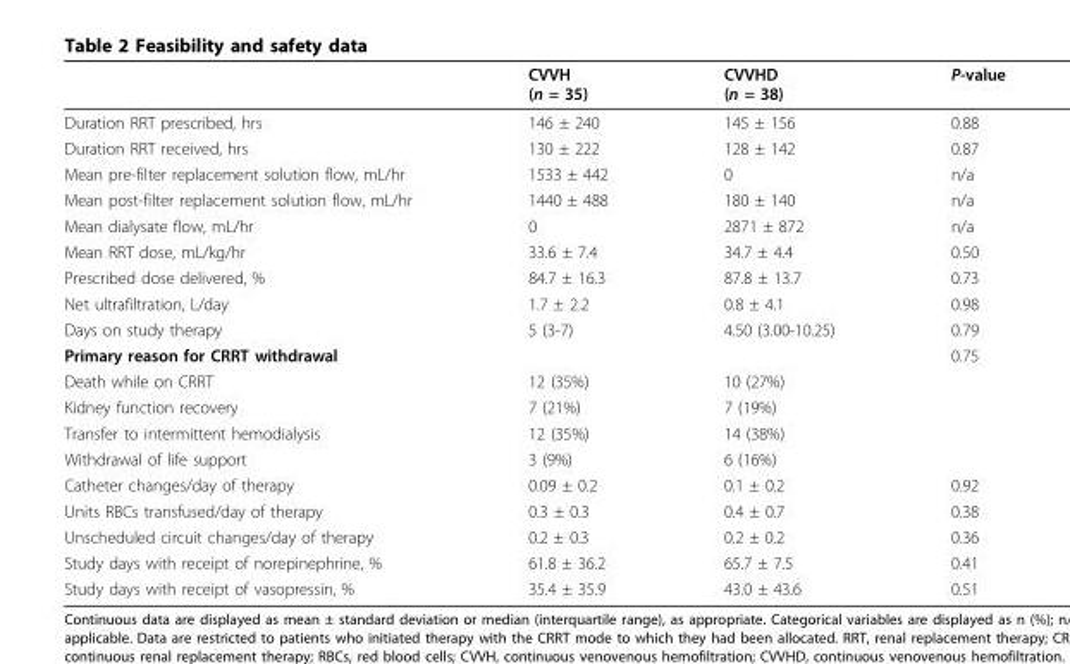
<table><thead><tr><td></td><td>CVVH (n = 35)</td><td>CVVHD (n = 38)</td><td>P-value</td></tr></thead><tbody><tr><td>Duration RRT prescribed, hrs</td><td>146 ± 240</td><td>145 ± 156</td><td>0.88</td></tr><tr><td>Duration RRT received, hrs</td><td>130 ± 222</td><td>128 ± 142</td><td>0.87</td></tr><tr><td>Mean pre-filter replacement solution flow, mL/hr</td><td>1533 ± 442</td><td>0</td><td>n/a</td></tr><tr><td>Mean post-filter replacement solution flow, mL/hr</td><td>1440 ± 488</td><td>180 ± 140</td><td>n/a</td></tr><tr><td>Mean dialysate flow, mL/hr</td><td>0</td><td>2871 ± 872</td><td>n/a</td></tr><tr><td>Mean RRT dose, mL/kg/hr</td><td>33.6 ± 7.4</td><td>34.7 ± 4.4</td><td>0.50</td></tr><tr><td>Prescribed dose delivered, %</td><td>84.7 ± 16.3</td><td>87.8 ± 13.7</td><td>0.73</td></tr><tr><td>Net ultrafiltration, L/day</td><td>1.7 ± 2.2</td><td>0.8 ± 4.1</td><td>0.98</td></tr><tr><td>Days on study therapy</td><td>5 (3-7)</td><td>4.50 (3.00-10.25)</td><td>0.79</td></tr><tr><td>Primary reason for CRRT withdrawal</td><td></td><td></td><td>0.75</td></tr><tr><td>Death while on CRRT</td><td>12 (35%)</td><td>10 (27%)</td><td></td></tr><tr><td>Kidney function recovery</td><td>7 (21%)</td><td>7 (19%)</td><td></td></tr><tr><td>Transfer to intermittent hemodialysis</td><td>12 (35%)</td><td>14 (38%)</td><td></td></tr><tr><td>Withdrawal of life support</td><td>3 (9%)</td><td>6 (16%)</td><td></td></tr><tr><td>Catheter changes/day of therapy</td><td>0.09 ± 0.2</td><td>0.1 ± 0.2</td><td>0.92</td></tr><tr><td>Units RBCs transfused/day of therapy</td><td>0.3 ± 0.3</td><td>0.4 ± 0.7</td><td>0.38</td></tr><tr><td>Unscheduled circuit changes/day of therapy</td><td>0.2 ± 0.3</td><td>0.2 ± 0.2</td><td>0.36</td></tr><tr><td>Study days with receipt of norepinephrine, %</td><td>61.8 ± 36.2</td><td>65.7 ± 7.5</td><td>0.41</td></tr><tr><td>Study days with receipt of vasopressin, %</td><td>35.4 ± 35.9</td><td>43.0 ± 43.6</td><td>0.51</td></tr></tbody></table>